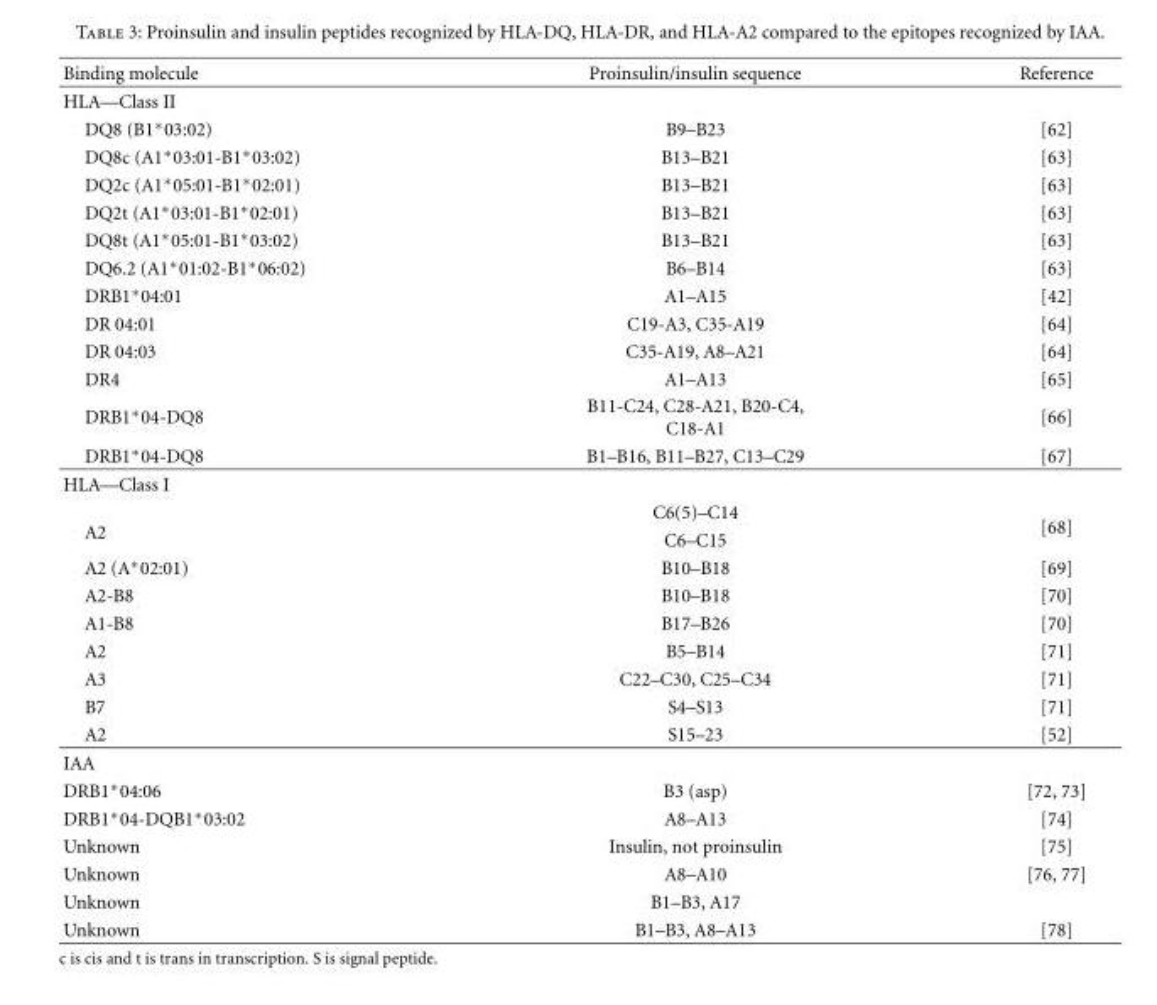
<table><thead><tr><td>Binding molecule</td><td>Proinsulin/insulin sequence</td><td>Reference</td></tr></thead><tbody><tr><td colspan="3">HLA—Class II</td></tr><tr><td>DQ8 (B1∗03:02)</td><td>B9–B23</td><td>[62]</td></tr><tr><td>DQ8c (A1∗03:01-B1∗03:02)</td><td>B13–B21</td><td>[63]</td></tr><tr><td>DQ2c (A1∗05:01-B1∗02:01)</td><td>B13–B21</td><td>[63]</td></tr><tr><td>DQ2t (A1∗03:01-B1∗02:01)</td><td>B13–B21</td><td>[63]</td></tr><tr><td>DQ8t (A1∗05:01-B1∗03:02)</td><td>B13–B21</td><td>[63]</td></tr><tr><td>DQ6.2 (A1∗01:02-B1∗06:02)</td><td>B6–B14</td><td>[63]</td></tr><tr><td>DRB1∗04:01</td><td>A1–A15</td><td>[42]</td></tr><tr><td>DR 04:01</td><td>C19-A3, C35-A19</td><td>[64]</td></tr><tr><td>DR 04:03</td><td>C35-A19, A8–A21</td><td>[64]</td></tr><tr><td>DR4</td><td>A1–A13</td><td>[65]</td></tr><tr><td>DRB1∗04-DQ8</td><td>B11-C24, C28-A21, B20-C4, C18-A1</td><td>[66]</td></tr><tr><td>DRB1∗04-DQ8</td><td>B1–B16, B11–B27, C13–C29</td><td>[67]</td></tr><tr><td colspan="3">HLA—Class I</td></tr><tr><td rowspan="2">A2</td><td>C6(5)–C14</td><td rowspan="2">[68]</td></tr><tr><td>C6–C15</td></tr><tr><td>A2 (A∗02:01)</td><td>B10–B18</td><td>[69]</td></tr><tr><td>A2-B8</td><td>B10–B18</td><td>[70]</td></tr><tr><td>A1-B8</td><td>B17–B26</td><td>[70]</td></tr><tr><td>A2</td><td>B5–B14</td><td>[71]</td></tr><tr><td>A3</td><td>C22–C30, C25–C34</td><td>[71]</td></tr><tr><td>B7</td><td>S4–S13</td><td>[71]</td></tr><tr><td>A2</td><td>S15–23</td><td>[52]</td></tr><tr><td colspan="3">IAA</td></tr><tr><td>DRB1∗04:06</td><td>B3 (asp)</td><td>[72, 73]</td></tr><tr><td>DRB1∗04-DQB1∗03:02</td><td>A8–A13</td><td>[74]</td></tr><tr><td>Unknown</td><td>Insulin, not proinsulin</td><td>[75]</td></tr><tr><td>Unknown</td><td>A8–A10</td><td>[76, 77]</td></tr><tr><td>Unknown</td><td>B1–B3, A17</td><td></td></tr><tr><td>Unknown</td><td>B1–B3, A8–A13</td><td>[78]</td></tr></tbody></table>